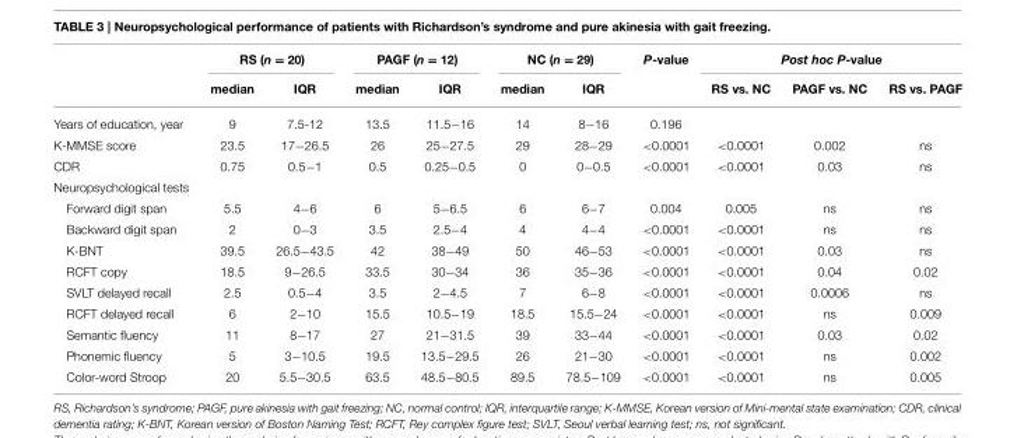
<table><thead><tr><td rowspan="2"></td><td colspan="2">RS (n = 20)</td><td colspan="2">PAGF (n = 12)</td><td colspan="2">NC (n = 29)</td><td rowspan="2">P-value</td><td colspan="3">Post hoc P-value</td></tr><tr><td>median</td><td>IQR</td><td>median</td><td>IQR</td><td>median</td><td>IQR</td><td>RS vs. NC</td><td>PAGF vs. NC</td><td>RS vs. PAGF</td></tr></thead><tbody><tr><td>Years of education, year</td><td>9</td><td>7.5-12</td><td>13.5</td><td>11.5−16</td><td>14</td><td>8−16</td><td>0.196</td><td></td><td></td><td></td></tr><tr><td>K-MMSE score</td><td>23.5</td><td>17−26.5</td><td>26</td><td>25−27.5</td><td>29</td><td>28−29</td><td>&lt;0.0001</td><td>&lt;0.0001</td><td>0.002</td><td>ns</td></tr><tr><td>CDR</td><td>0.75</td><td>0.5−1</td><td>0.5</td><td>0.25−0.5</td><td>0</td><td>0−0.5</td><td>&lt;0.0001</td><td>&lt;0.0001</td><td>0.03</td><td>ns</td></tr><tr><td colspan="11">Neuropsychological tests</td></tr><tr><td>Forward digit span</td><td>5.5</td><td>4−6</td><td>6</td><td>5−6.5</td><td>6</td><td>6−7</td><td>0.004</td><td>0.005</td><td>ns</td><td>ns</td></tr><tr><td>Backward digit span</td><td>2</td><td>0−3</td><td>3.5</td><td>2.5−4</td><td>4</td><td>4−4</td><td>&lt;0.0001</td><td>&lt;0.0001</td><td>ns</td><td>ns</td></tr><tr><td>K-BNT</td><td>39.5</td><td>26.5−43.5</td><td>42</td><td>38−49</td><td>50</td><td>46−53</td><td>&lt;0.0001</td><td>&lt;0.0001</td><td>0.03</td><td>ns</td></tr><tr><td>RCFT copy</td><td>18.5</td><td>9−26.5</td><td>33.5</td><td>30−34</td><td>36</td><td>35−36</td><td>&lt;0.0001</td><td>&lt;0.0001</td><td>0.04</td><td>0.02</td></tr><tr><td>SVLT delayed recall</td><td>2.5</td><td>0.5−4</td><td>3.5</td><td>2−4.5</td><td>7</td><td>6−8</td><td>&lt;0.0001</td><td>&lt;0.0001</td><td>0.0006</td><td>ns</td></tr><tr><td>RCFT delayed recall</td><td>6</td><td>2−10</td><td>15.5</td><td>10.5−19</td><td>18.5</td><td>15.5−24</td><td>&lt;0.0001</td><td>&lt;0.0001</td><td>ns</td><td>0.009</td></tr><tr><td>Semantic fluency</td><td>11</td><td>8−17</td><td>27</td><td>21−31.5</td><td>39</td><td>33−44</td><td>&lt;0.0001</td><td>&lt;0.0001</td><td>0.03</td><td>0.02</td></tr><tr><td>Phonemic fluency</td><td>5</td><td>3−10.5</td><td>19.5</td><td>13.5−29.5</td><td>26</td><td>21−30</td><td>&lt;0.0001</td><td>&lt;0.0001</td><td>ns</td><td>0.002</td></tr><tr><td>Color-word Stroop</td><td>20</td><td>5.5−30.5</td><td>63.5</td><td>48.5−80.5</td><td>89.5</td><td>78.5−109</td><td>&lt;0.0001</td><td>&lt;0.0001</td><td>ns</td><td>0.005</td></tr></tbody></table>